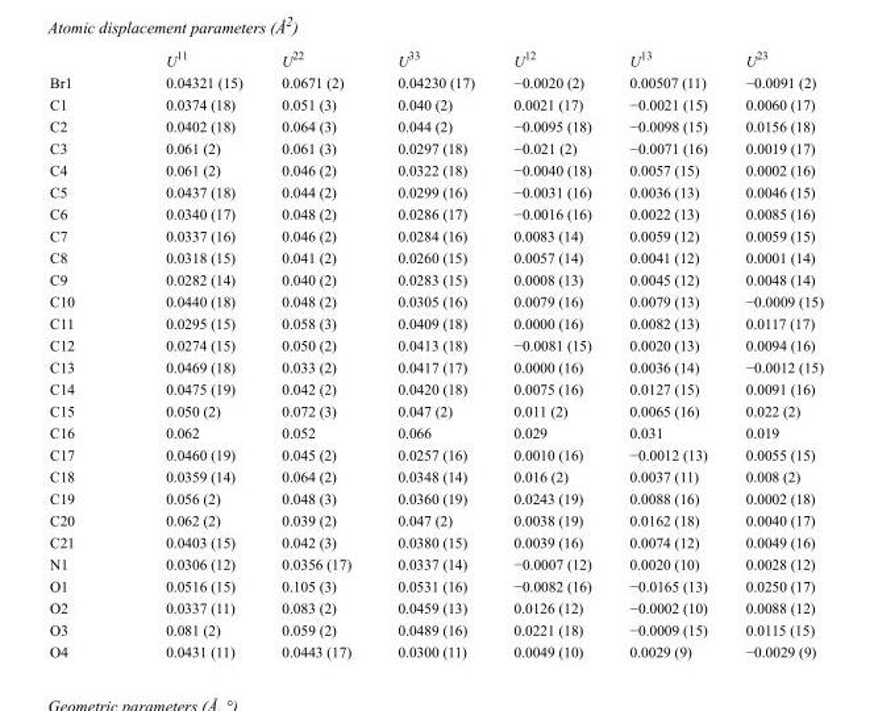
<table><thead><tr><td></td><td>U<sup>11</sup></td><td>U<sup>22</sup></td><td>U<sup>33</sup></td><td>U<sup>12</sup></td><td>U<sup>13</sup></td><td>U<sup>23</sup></td></tr></thead><tbody><tr><td>Br1</td><td>0.04321 (15)</td><td>0.0671 (2)</td><td>0.04230 (17)</td><td>−0.0020 (2)</td><td>0.00507 (11)</td><td>−0.0091 (2)</td></tr><tr><td>C1</td><td>0.0374 (18)</td><td>0.051 (3)</td><td>0.040 (2)</td><td>0.0021 (17)</td><td>−0.0021 (15)</td><td>0.0060 (17)</td></tr><tr><td>C2</td><td>0.0402 (18)</td><td>0.064 (3)</td><td>0.044 (2)</td><td>−0.0095 (18)</td><td>−0.0098 (15)</td><td>0.0156 (18)</td></tr><tr><td>C3</td><td>0.061 (2)</td><td>0.061 (3)</td><td>0.0297 (18)</td><td>−0.021 (2)</td><td>−0.0071 (16)</td><td>0.0019 (17)</td></tr><tr><td>C4</td><td>0.061 (2)</td><td>0.046 (2)</td><td>0.0322 (18)</td><td>−0.0040 (18)</td><td>0.0057 (15)</td><td>0.0002 (16)</td></tr><tr><td>C5</td><td>0.0437 (18)</td><td>0.044 (2)</td><td>0.0299 (16)</td><td>−0.0031 (16)</td><td>0.0036 (13)</td><td>0.0046 (15)</td></tr><tr><td>C6</td><td>0.0340 (17)</td><td>0.048 (2)</td><td>0.0286 (17)</td><td>−0.0016 (16)</td><td>0.0022 (13)</td><td>0.0085 (16)</td></tr><tr><td>C7</td><td>0.0337 (16)</td><td>0.046 (2)</td><td>0.0284 (16)</td><td>0.0083 (14)</td><td>0.0059 (12)</td><td>0.0059 (15)</td></tr><tr><td>C8</td><td>0.0318 (15)</td><td>0.041 (2)</td><td>0.0260 (15)</td><td>0.0057 (14)</td><td>0.0041 (12)</td><td>0.0001 (14)</td></tr><tr><td>C9</td><td>0.0282 (14)</td><td>0.040 (2)</td><td>0.0283 (15)</td><td>0.0008 (13)</td><td>0.0045 (12)</td><td>0.0048 (14)</td></tr><tr><td>C10</td><td>0.0440 (18)</td><td>0.048 (2)</td><td>0.0305 (16)</td><td>0.0079 (16)</td><td>0.0079 (13)</td><td>−0.0009 (15)</td></tr><tr><td>C11</td><td>0.0295 (15)</td><td>0.058 (3)</td><td>0.0409 (18)</td><td>0.0000 (16)</td><td>0.0082 (13)</td><td>0.0117 (17)</td></tr><tr><td>C12</td><td>0.0274 (15)</td><td>0.050 (2)</td><td>0.0413 (18)</td><td>−0.0081 (15)</td><td>0.0020 (13)</td><td>0.0094 (16)</td></tr><tr><td>C13</td><td>0.0469 (18)</td><td>0.033 (2)</td><td>0.0417 (17)</td><td>0.0000 (16)</td><td>0.0036 (14)</td><td>−0.0012 (15)</td></tr><tr><td>C14</td><td>0.0475 (19)</td><td>0.042 (2)</td><td>0.0420 (18)</td><td>0.0075 (16)</td><td>0.0127 (15)</td><td>0.0091 (16)</td></tr><tr><td>C15</td><td>0.050 (2)</td><td>0.072 (3)</td><td>0.047 (2)</td><td>0.011 (2)</td><td>0.0065 (16)</td><td>0.022 (2)</td></tr><tr><td>C16</td><td>0.062</td><td>0.052</td><td>0.066</td><td>0.029</td><td>0.031</td><td>0.019</td></tr><tr><td>C17</td><td>0.0460 (19)</td><td>0.045 (2)</td><td>0.0257 (16)</td><td>0.0010 (16)</td><td>−0.0012 (13)</td><td>0.0055 (15)</td></tr><tr><td>C18</td><td>0.0359 (14)</td><td>0.064 (2)</td><td>0.0348 (14)</td><td>0.016 (2)</td><td>0.0037 (11)</td><td>0.008 (2)</td></tr><tr><td>C19</td><td>0.056 (2)</td><td>0.048 (3)</td><td>0.0360 (19)</td><td>0.0243 (19)</td><td>0.0088 (16)</td><td>0.0002 (18)</td></tr><tr><td>C20</td><td>0.062 (2)</td><td>0.039 (2)</td><td>0.047 (2)</td><td>0.0038 (19)</td><td>0.0162 (18)</td><td>0.0040 (17)</td></tr><tr><td>C21</td><td>0.0403 (15)</td><td>0.042 (3)</td><td>0.0380 (15)</td><td>0.0039 (16)</td><td>0.0074 (12)</td><td>0.0049 (16)</td></tr><tr><td>N1</td><td>0.0306 (12)</td><td>0.0356 (17)</td><td>0.0337 (14)</td><td>−0.0007 (12)</td><td>0.0020 (10)</td><td>0.0028 (12)</td></tr><tr><td>O1</td><td>0.0516 (15)</td><td>0.105 (3)</td><td>0.0531 (16)</td><td>−0.0082 (16)</td><td>−0.0165 (13)</td><td>0.0250 (17)</td></tr><tr><td>O2</td><td>0.0337 (11)</td><td>0.083 (2)</td><td>0.0459 (13)</td><td>0.0126 (12)</td><td>−0.0002 (10)</td><td>0.0088 (12)</td></tr><tr><td>O3</td><td>0.081 (2)</td><td>0.059 (2)</td><td>0.0489 (16)</td><td>0.0221 (18)</td><td>−0.0009 (15)</td><td>0.0115 (15)</td></tr><tr><td>O4</td><td>0.0431 (11)</td><td>0.0443 (17)</td><td>0.0300 (11)</td><td>0.0049 (10)</td><td>0.0029 (9)</td><td>−0.0029 (9)</td></tr></tbody></table>